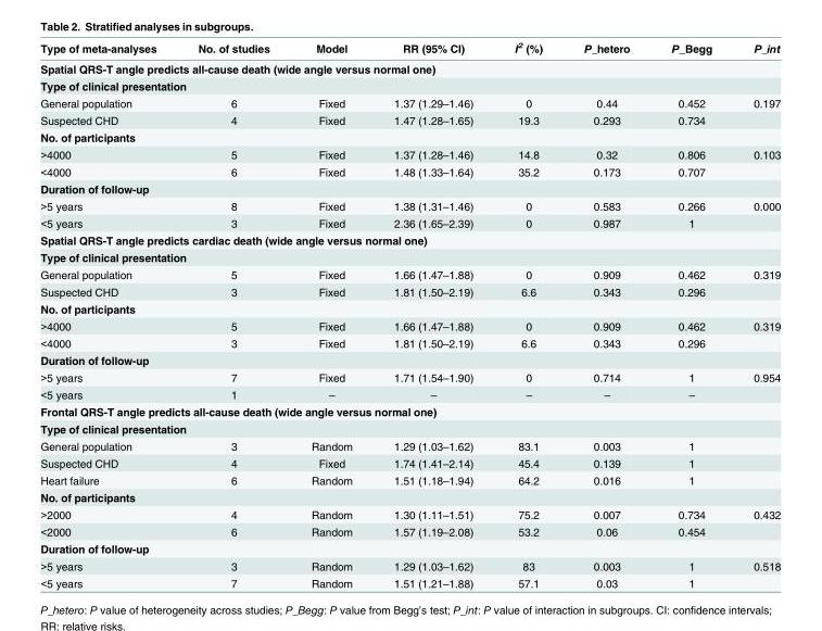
<table><thead><tr><td>Type of meta-analyses</td><td>No. of studies</td><td>Model</td><td>RR (95% CI)</td><td>I<sup>2</sup> (%)</td><td>P_hetero</td><td>P_Begg</td><td>P_int</td></tr></thead><tbody><tr><td colspan="8">Spatial QRS-T angle predicts all-cause death (wide angle versus normal one)</td></tr><tr><td colspan="8">Type of clinical presentation</td></tr><tr><td>General population</td><td>6</td><td>Fixed</td><td>1.37 (1.29–1.46)</td><td>0</td><td>0.44</td><td>0.452</td><td>0.197</td></tr><tr><td>Suspected CHD</td><td>4</td><td>Fixed</td><td>1.47 (1.28–1.65)</td><td>19.3</td><td>0.293</td><td>0.734</td><td></td></tr><tr><td colspan="8">No. of participants</td></tr><tr><td>&gt;4000</td><td>5</td><td>Fixed</td><td>1.37 (1.28–1.46)</td><td>14.8</td><td>0.32</td><td>0.806</td><td>0.103</td></tr><tr><td>&lt;4000</td><td>6</td><td>Fixed</td><td>1.48 (1.33–1.64)</td><td>35.2</td><td>0.173</td><td>0.707</td><td></td></tr><tr><td colspan="8">Duration of follow-up</td></tr><tr><td>&gt;5 years</td><td>8</td><td>Fixed</td><td>1.38 (1.31–1.46)</td><td>0</td><td>0.583</td><td>0.266</td><td>0.000</td></tr><tr><td>&lt;5 years</td><td>3</td><td>Fixed</td><td>2.36 (1.65–2.39)</td><td>0</td><td>0.987</td><td>1</td><td></td></tr><tr><td colspan="8">Spatial QRS-T angle predicts cardiac death (wide angle versus normal one)</td></tr><tr><td colspan="8">Type of clinical presentation</td></tr><tr><td>General population</td><td>5</td><td>Fixed</td><td>1.66 (1.47–1.88)</td><td>0</td><td>0.909</td><td>0.462</td><td>0.319</td></tr><tr><td>Suspected CHD</td><td>3</td><td>Fixed</td><td>1.81 (1.50–2.19)</td><td>6.6</td><td>0.343</td><td>0.296</td><td></td></tr><tr><td colspan="8">No. of participants</td></tr><tr><td>&gt;4000</td><td>5</td><td>Fixed</td><td>1.66 (1.47–1.88)</td><td>0</td><td>0.909</td><td>0.462</td><td>0.319</td></tr><tr><td>&lt;4000</td><td>3</td><td>Fixed</td><td>1.81 (1.50–2.19)</td><td>6.6</td><td>0.343</td><td>0.296</td><td></td></tr><tr><td colspan="8">Duration of follow-up</td></tr><tr><td>&gt;5 years</td><td>7</td><td>Fixed</td><td>1.71 (1.54–1.90)</td><td>0</td><td>0.714</td><td>1</td><td>0.954</td></tr><tr><td>&lt;5 years</td><td>1</td><td>–</td><td>–</td><td>–</td><td>–</td><td>–</td><td></td></tr><tr><td colspan="8">Frontal QRS-T angle predicts all-cause death (wide angle versus normal one)</td></tr><tr><td colspan="8">Type of clinical presentation</td></tr><tr><td>General population</td><td>3</td><td>Random</td><td>1.29 (1.03–1.62)</td><td>83.1</td><td>0.003</td><td>1</td><td></td></tr><tr><td>Suspected CHD</td><td>4</td><td>Fixed</td><td>1.74 (1.41–2.14)</td><td>45.4</td><td>0.139</td><td>1</td><td></td></tr><tr><td>Heart failure</td><td>6</td><td>Random</td><td>1.51 (1.18–1.94)</td><td>64.2</td><td>0.016</td><td>1</td><td></td></tr><tr><td colspan="8">No. of participants</td></tr><tr><td>&gt;2000</td><td>4</td><td>Random</td><td>1.30 (1.11–1.51)</td><td>75.2</td><td>0.007</td><td>0.734</td><td>0.432</td></tr><tr><td>&lt;2000</td><td>6</td><td>Random</td><td>1.57 (1.19–2.08)</td><td>53.2</td><td>0.06</td><td>0.454</td><td></td></tr><tr><td colspan="8">Duration of follow-up</td></tr><tr><td>&gt;5 years</td><td>3</td><td>Random</td><td>1.29 (1.03–1.62)</td><td>83</td><td>0.003</td><td>1</td><td>0.518</td></tr><tr><td>&lt;5 years</td><td>7</td><td>Random</td><td>1.51 (1.21–1.88)</td><td>57.1</td><td>0.03</td><td>1</td><td></td></tr></tbody></table>